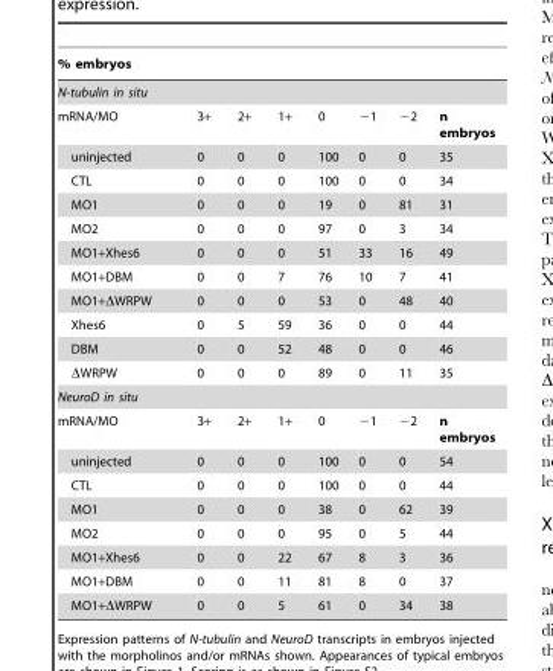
<table><thead><tr><td rowspan="2" colspan="8">% embryos N-tubulin in situ</td></tr><tr></tr><tr><td>mRNA/MO</td><td>3+</td><td>2+</td><td>1+</td><td>0</td><td>−1</td><td>−2</td><td>n embryos</td></tr></thead><tbody><tr><td>uninjected</td><td>0</td><td>0</td><td>0</td><td>100</td><td>0</td><td>0</td><td>35</td></tr><tr><td>CTL</td><td>0</td><td>0</td><td>0</td><td>100</td><td>0</td><td>0</td><td>34</td></tr><tr><td>MO1</td><td>0</td><td>0</td><td>0</td><td>19</td><td>0</td><td>81</td><td>31</td></tr><tr><td>MO2</td><td>0</td><td>0</td><td>0</td><td>97</td><td>0</td><td>3</td><td>34</td></tr><tr><td>MO1+Xhes6</td><td>0</td><td>0</td><td>0</td><td>51</td><td>33</td><td>16</td><td>49</td></tr><tr><td>MO1+DBM</td><td>0</td><td>0</td><td>7</td><td>76</td><td>10</td><td>7</td><td>41</td></tr><tr><td>MO1+ΔWRPW</td><td>0</td><td>0</td><td>0</td><td>53</td><td>0</td><td>48</td><td>40</td></tr><tr><td>Xhes6</td><td>0</td><td>5</td><td>59</td><td>36</td><td>0</td><td>0</td><td>44</td></tr><tr><td>DBM</td><td>0</td><td>0</td><td>52</td><td>48</td><td>0</td><td>0</td><td>46</td></tr><tr><td>ΔWRPW</td><td>0</td><td>0</td><td>0</td><td>89</td><td>0</td><td>11</td><td>35</td></tr><tr><td colspan="8">NeuroD in situ</td></tr><tr><td>mRNA/MO</td><td>3+</td><td>2+</td><td>1+</td><td>0</td><td>−1</td><td>−2</td><td>n embryos</td></tr><tr><td>uninjected</td><td>0</td><td>0</td><td>0</td><td>100</td><td>0</td><td>0</td><td>54</td></tr><tr><td>CTL</td><td>0</td><td>0</td><td>0</td><td>100</td><td>0</td><td>0</td><td>44</td></tr><tr><td>MO1</td><td>0</td><td>0</td><td>0</td><td>38</td><td>0</td><td>62</td><td>39</td></tr><tr><td>MO2</td><td>0</td><td>0</td><td>0</td><td>95</td><td>0</td><td>5</td><td>44</td></tr><tr><td>MO1+Xhes6</td><td>0</td><td>0</td><td>22</td><td>67</td><td>8</td><td>3</td><td>36</td></tr><tr><td>MO1+DBM</td><td>0</td><td>0</td><td>11</td><td>81</td><td>8</td><td>0</td><td>37</td></tr><tr><td>MO1+ΔWRPW</td><td>0</td><td>0</td><td>5</td><td>61</td><td>0</td><td>34</td><td>38</td></tr></tbody></table>